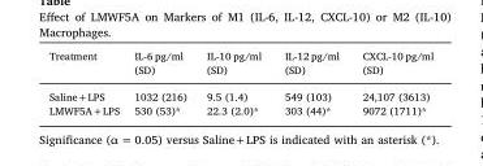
<table><thead><tr><td>Treatment</td><td>IL-6 pg/ml (SD)</td><td>IL-10 pg/ml (SD)</td><td>IL-12 pg/ml (SD)</td><td>CXCL-10 pg/ml (SD)</td></tr></thead><tbody><tr><td>Saline+LPS</td><td>1032 (216)</td><td>9.5 (1.4)</td><td>549 (103)</td><td>24,107 (3613)</td></tr><tr><td>LMWF5A+LPS</td><td>530 (53)*</td><td>22.3 (2.0)*</td><td>303 (44)*</td><td>9072 (1711)*</td></tr></tbody></table>